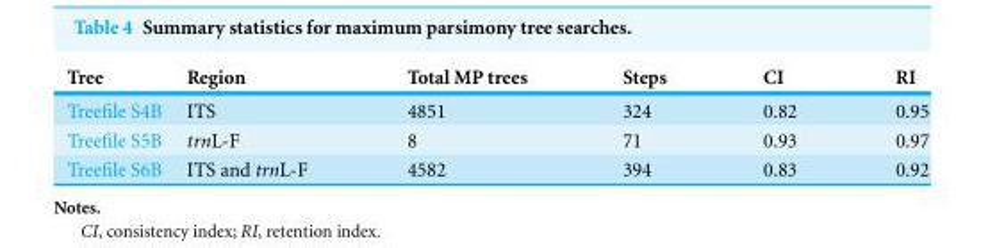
<table><thead><tr><td>Tree</td><td>Region</td><td>Total MP trees</td><td>Steps</td><td>CI</td><td>RI</td></tr></thead><tbody><tr><td>Treefile S4B</td><td>ITS</td><td>4851</td><td>324</td><td>0.82</td><td>0.95</td></tr><tr><td>Treefile S5B</td><td>trnL-F</td><td>8</td><td>71</td><td>0.93</td><td>0.97</td></tr><tr><td>Treefile S6B</td><td>ITS and trnL-F</td><td>4582</td><td>394</td><td>0.83</td><td>0.92</td></tr></tbody></table>